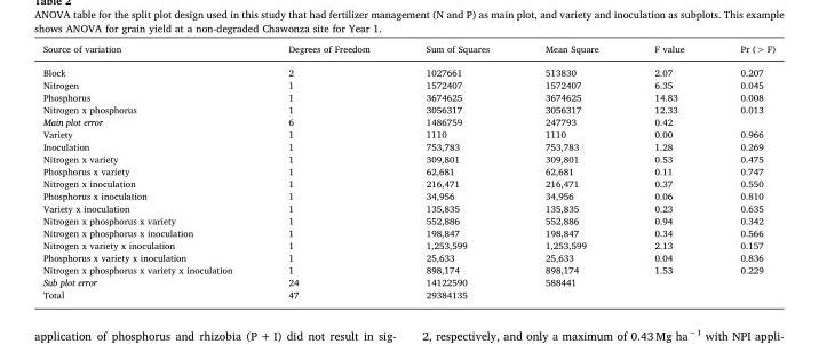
<table><thead><tr><td>Source of variation</td><td>Degrees of Freedom</td><td>Sum of Squares</td><td>Mean Square</td><td>F value</td><td>Pr (&gt; F)</td></tr></thead><tbody><tr><td>Block</td><td>2</td><td>1027661</td><td>513830</td><td>2.07</td><td>0.207</td></tr><tr><td>Nitrogen</td><td>1</td><td>1572407</td><td>1572407</td><td>6.35</td><td>0.045</td></tr><tr><td>Phosphorus</td><td>1</td><td>3674625</td><td>3674625</td><td>14.83</td><td>0.008</td></tr><tr><td>Nitrogen x phosphorus</td><td>1</td><td>3056317</td><td>3056317</td><td>12.33</td><td>0.013</td></tr><tr><td>Main plot error</td><td>6</td><td>1486759</td><td>247793</td><td>0.42</td><td></td></tr><tr><td>Variety</td><td>1</td><td>1110</td><td>1110</td><td>0.00</td><td>0.966</td></tr><tr><td>Inoculation</td><td>1</td><td>753,783</td><td>753,783</td><td>1.28</td><td>0.269</td></tr><tr><td>Nitrogen x variety</td><td>1</td><td>309,801</td><td>309,801</td><td>0.53</td><td>0.475</td></tr><tr><td>Phosphorus x variety</td><td>1</td><td>62,681</td><td>62,681</td><td>0.11</td><td>0.747</td></tr><tr><td>Nitrogen x inoculation</td><td>1</td><td>216,471</td><td>216,471</td><td>0.37</td><td>0.550</td></tr><tr><td>Phosphorus x inoculation</td><td>1</td><td>34,956</td><td>34,956</td><td>0.06</td><td>0.810</td></tr><tr><td>Variety x inoculation</td><td>1</td><td>135,835</td><td>135,835</td><td>0.23</td><td>0.635</td></tr><tr><td>Nitrogen x phosphorus x variety</td><td>1</td><td>552,886</td><td>552,886</td><td>0.94</td><td>0.342</td></tr><tr><td>Nitrogen x phosphorus x inoculation</td><td>1</td><td>198,847</td><td>198,847</td><td>0.34</td><td>0.566</td></tr><tr><td>Nitrogen x variety x inoculation</td><td>1</td><td>1,253,599</td><td>1,253,599</td><td>2.13</td><td>0.157</td></tr><tr><td>Phosphorus x variety x inoculation</td><td>1</td><td>25,633</td><td>25,633</td><td>0.04</td><td>0.836</td></tr><tr><td>Nitrogen x phosphorus x variety x inoculation</td><td>1</td><td>898,174</td><td>898,174</td><td>1.53</td><td>0.229</td></tr><tr><td>Sub plot error</td><td>24</td><td>14122590</td><td>588441</td><td></td><td></td></tr><tr><td>Total</td><td>47</td><td>29384135</td><td></td><td></td><td></td></tr></tbody></table>